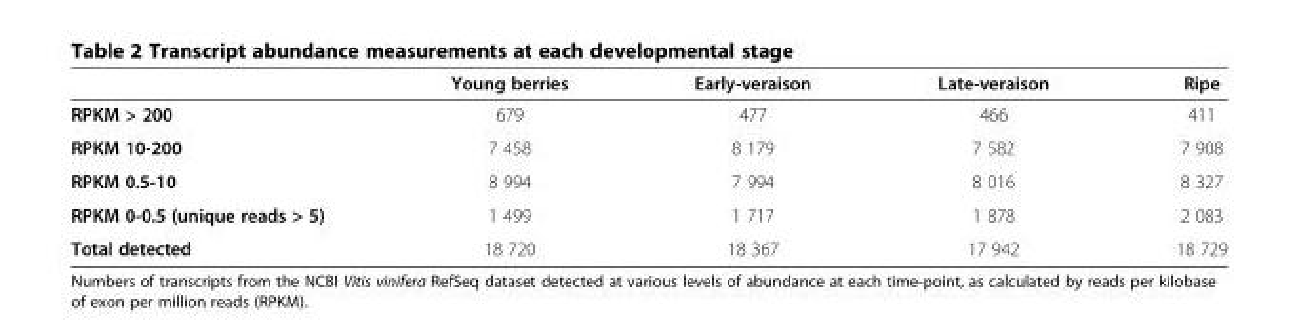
<table><thead><tr><td></td><td>Young berries</td><td>Early-veraison</td><td>Late-veraison</td><td>Ripe</td></tr></thead><tbody><tr><td>RPKM &gt; 200</td><td>679</td><td>477</td><td>466</td><td>411</td></tr><tr><td>RPKM 10-200</td><td>7 458</td><td>8 179</td><td>7 582</td><td>7 908</td></tr><tr><td>RPKM 0.5-10</td><td>8 994</td><td>7 994</td><td>8 016</td><td>8 327</td></tr><tr><td>RPKM 0-0.5 (unique reads &gt; 5)</td><td>1 499</td><td>1 717</td><td>1 878</td><td>2 083</td></tr><tr><td>Total detected</td><td>18 720</td><td>18 367</td><td>17 942</td><td>18 729</td></tr></tbody></table>